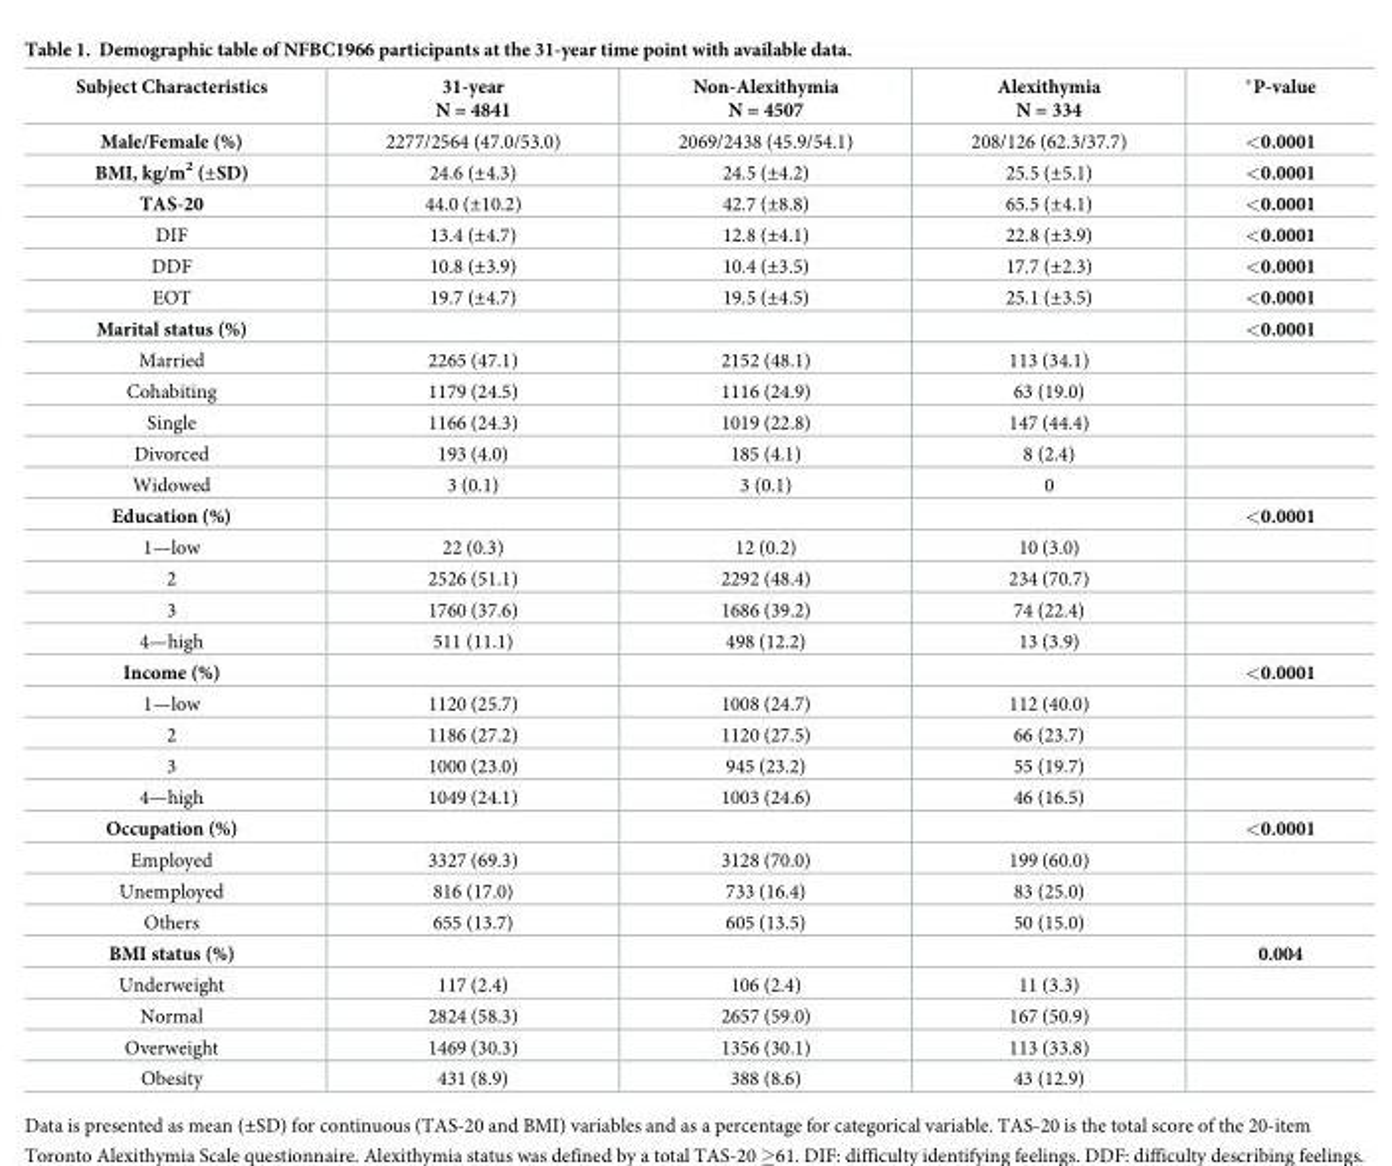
<table><thead><tr><td>Subject Characteristics</td><td>31-year N = 4841</td><td>Non-Alexithymia N = 4507</td><td>Alexithymia N = 334</td><td>*P-value</td></tr></thead><tbody><tr><td>Male/Female (%)</td><td>2277/2564 (47.0/53.0)</td><td>2069/2438 (45.9/54.1)</td><td>208/126 (62.3/37.7)</td><td>&lt;0.0001</td></tr><tr><td>BMI, kg/m<sup>2</sup> (±SD)</td><td>24.6 (±4.3)</td><td>24.5 (±4.2)</td><td>25.5 (±5.1)</td><td>&lt;0.0001</td></tr><tr><td>TAS-20</td><td>44.0 (±10.2)</td><td>42.7 (±8.8)</td><td>65.5 (±4.1)</td><td>&lt;0.0001</td></tr><tr><td>DIF</td><td>13.4 (±4.7)</td><td>12.8 (±4.1)</td><td>22.8 (±3.9)</td><td>&lt;0.0001</td></tr><tr><td>DDF</td><td>10.8 (±3.9)</td><td>10.4 (±3.5)</td><td>17.7 (±2.3)</td><td>&lt;0.0001</td></tr><tr><td>EOT</td><td>19.7 (±4.7)</td><td>19.5 (±4.5)</td><td>25.1 (±3.5)</td><td>&lt;0.0001</td></tr><tr><td>Marital status (%)</td><td></td><td></td><td></td><td>&lt;0.0001</td></tr><tr><td>Married</td><td>2265 (47.1)</td><td>2152 (48.1)</td><td>113 (34.1)</td><td></td></tr><tr><td>Cohabiting</td><td>1179 (24.5)</td><td>1116 (24.9)</td><td>63 (19.0)</td><td></td></tr><tr><td>Single</td><td>1166 (24.3)</td><td>1019 (22.8)</td><td>147 (44.4)</td><td></td></tr><tr><td>Divorced</td><td>193 (4.0)</td><td>185 (4.1)</td><td>8 (2.4)</td><td></td></tr><tr><td>Widowed</td><td>3 (0.1)</td><td>3 (0.1)</td><td>0</td><td></td></tr><tr><td>Education (%)</td><td></td><td></td><td></td><td>&lt;0.0001</td></tr><tr><td>1—low</td><td>22 (0.3)</td><td>12 (0.2)</td><td>10 (3.0)</td><td></td></tr><tr><td>2</td><td>2526 (51.1)</td><td>2292 (48.4)</td><td>234 (70.7)</td><td></td></tr><tr><td>3</td><td>1760 (37.6)</td><td>1686 (39.2)</td><td>74 (22.4)</td><td></td></tr><tr><td>4—high</td><td>511 (11.1)</td><td>498 (12.2)</td><td>13 (3.9)</td><td></td></tr><tr><td>Income (%)</td><td></td><td></td><td></td><td>&lt;0.0001</td></tr><tr><td>1—low</td><td>1120 (25.7)</td><td>1008 (24.7)</td><td>112 (40.0)</td><td></td></tr><tr><td>2</td><td>1186 (27.2)</td><td>1120 (27.5)</td><td>66 (23.7)</td><td></td></tr><tr><td>3</td><td>1000 (23.0)</td><td>945 (23.2)</td><td>55 (19.7)</td><td></td></tr><tr><td>4—high</td><td>1049 (24.1)</td><td>1003 (24.6)</td><td>46 (16.5)</td><td></td></tr><tr><td>Occupation (%)</td><td></td><td></td><td></td><td>&lt;0.0001</td></tr><tr><td>Employed</td><td>3327 (69.3)</td><td>3128 (70.0)</td><td>199 (60.0)</td><td></td></tr><tr><td>Unemployed</td><td>816 (17.0)</td><td>733 (16.4)</td><td>83 (25.0)</td><td></td></tr><tr><td>Others</td><td>655 (13.7)</td><td>605 (13.5)</td><td>50 (15.0)</td><td></td></tr><tr><td>BMI status (%)</td><td></td><td></td><td></td><td>0.004</td></tr><tr><td>Underweight</td><td>117 (2.4)</td><td>106 (2.4)</td><td>11 (3.3)</td><td></td></tr><tr><td>Normal</td><td>2824 (58.3)</td><td>2657 (59.0)</td><td>167 (50.9)</td><td></td></tr><tr><td>Overweight</td><td>1469 (30.3)</td><td>1356 (30.1)</td><td>113 (33.8)</td><td></td></tr><tr><td>Obesity</td><td>431 (8.9)</td><td>388 (8.6)</td><td>43 (12.9)</td><td></td></tr></tbody></table>